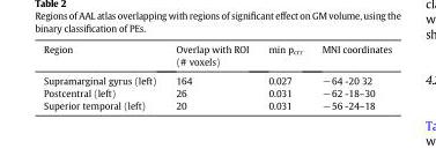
<table><thead><tr><td>Region</td><td>Overlap with ROI (# voxels)</td><td>min p<sub>crr</sub></td><td>MNI coordinates</td></tr></thead><tbody><tr><td>Supramarginal gyrus (left)</td><td>164</td><td>0.027</td><td>−64 -20 32</td></tr><tr><td>Postcentral (left)</td><td>26</td><td>0.031</td><td>−62 -18–30</td></tr><tr><td>Superior temporal (left)</td><td>20</td><td>0.031</td><td>−56 -24–18</td></tr></tbody></table>